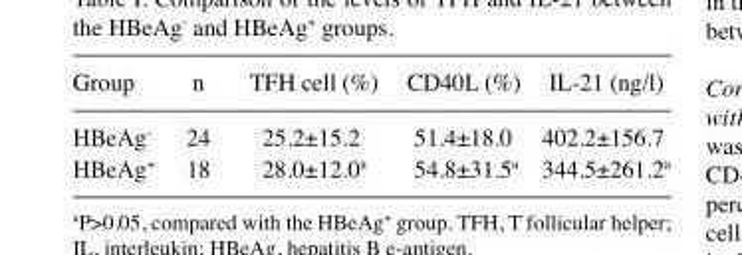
<table><thead><tr><td>Group</td><td>n</td><td>TFH cell (%)</td><td>CD40L (%)</td><td>IL-21 (ng/l)</td></tr></thead><tbody><tr><td>HBeAg<sup>-</sup></td><td>24</td><td>25.2±15.2</td><td>51.4±18.0</td><td>402.2±156.7</td></tr><tr><td>HBeAg<sup>+</sup></td><td>18</td><td>28.0±12.0<sup>a</sup></td><td>54.8±31.5<sup>a</sup></td><td>344.5±261.2<sup>a</sup></td></tr></tbody></table>